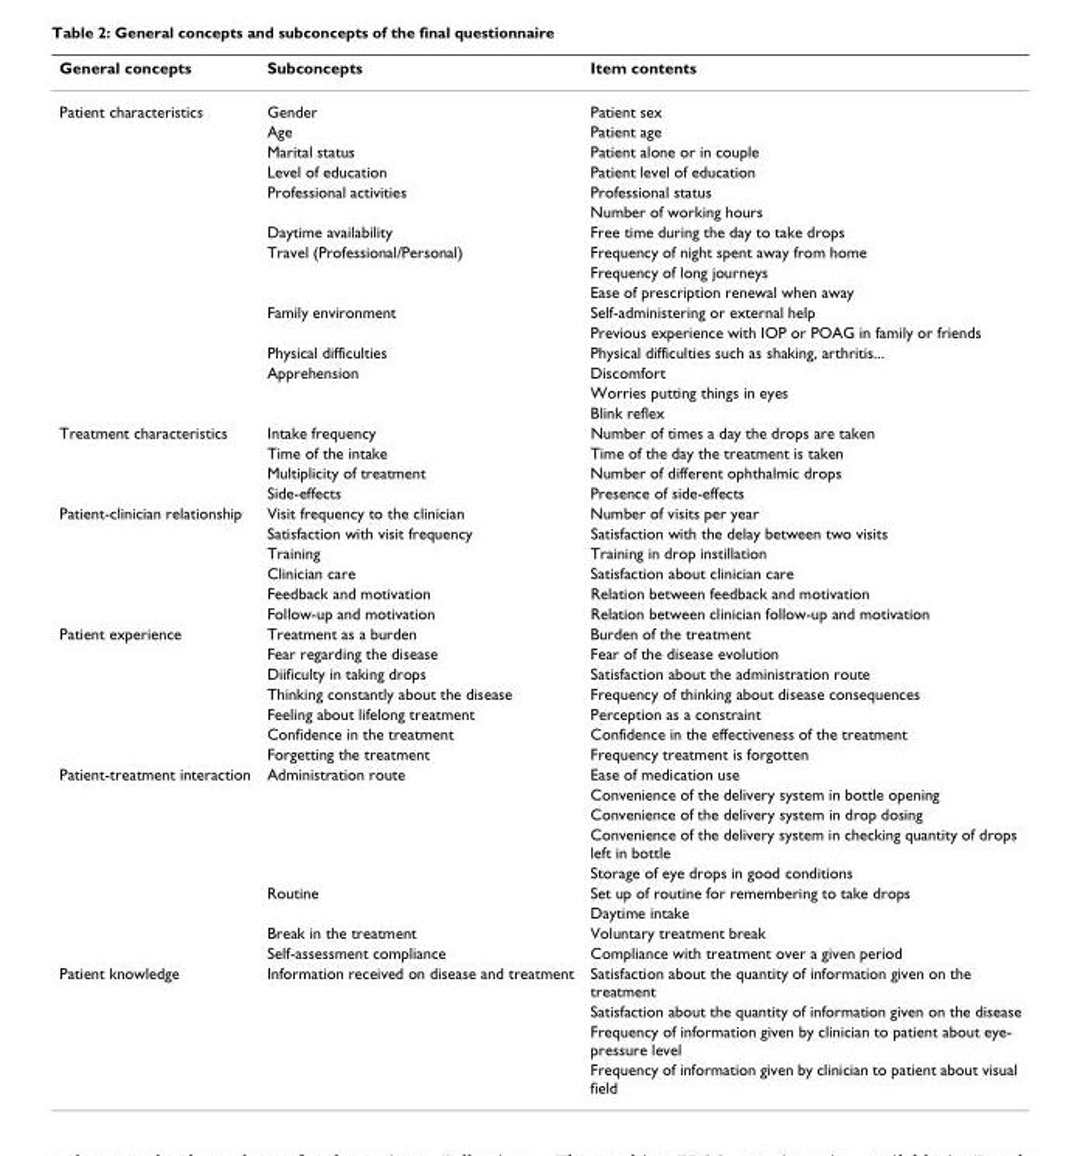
<table><thead><tr><td>General concepts</td><td>Subconcepts</td><td>Item contents</td></tr></thead><tbody><tr><td rowspan="16">Patient characteristics</td><td>Gender</td><td>Patient sex</td></tr><tr><td>Age</td><td>Patient age</td></tr><tr><td>Marital status</td><td>Patient alone or in couple</td></tr><tr><td>Level of education</td><td>Patient level of education</td></tr><tr><td>Professional activities</td><td>Professional status</td></tr><tr><td></td><td>Number of working hours</td></tr><tr><td>Daytime availability</td><td>Free time during the day to take drops</td></tr><tr><td>Travel (Professional/Personal)</td><td>Frequency of night spent away from home</td></tr><tr><td></td><td>Frequency of long journeys</td></tr><tr><td></td><td>Ease of prescription renewal when away</td></tr><tr><td>Family environment</td><td>Self-administering or external help</td></tr><tr><td></td><td>Previous experience with IOP or POAG in family or friends</td></tr><tr><td>Physical difficulties</td><td>Physical difficulties such as shaking, arthritis...</td></tr><tr><td>Apprehension</td><td>Discomfort</td></tr><tr><td></td><td>Worries putting things in eyes</td></tr><tr><td></td><td>Blink reflex</td></tr><tr><td rowspan="4">Treatment characteristics</td><td>Intake frequency</td><td>Number of times a day the drops are taken</td></tr><tr><td>Time of the intake</td><td>Time of the day the treatment is taken</td></tr><tr><td>Multiplicity of treatment</td><td>Number of different ophthalmic drops</td></tr><tr><td>Side-effects</td><td>Presence of side-effects</td></tr><tr><td rowspan="6">Patient-clinician relationship</td><td>Visit frequency to the clinician</td><td>Number of visits per year</td></tr><tr><td>Satisfaction with visit frequency</td><td>Satisfaction with the delay between two visits</td></tr><tr><td>Training</td><td>Training in drop instillation</td></tr><tr><td>Clinician care</td><td>Satisfaction about clinician care</td></tr><tr><td>Feedback and motivation</td><td>Relation between feedback and motivation</td></tr><tr><td>Follow-up and motivation</td><td>Relation between clinician follow-up and motivation</td></tr><tr><td rowspan="7">Patient experience</td><td>Treatment as a burden</td><td>Burden of the treatment</td></tr><tr><td>Fear regarding the disease</td><td>Fear of the disease evolution</td></tr><tr><td>Diificulty in taking drops</td><td>Satisfaction about the administration route</td></tr><tr><td>Thinking constantly about the disease</td><td>Frequency of thinking about disease consequences</td></tr><tr><td>Feeling about lifelong treatment</td><td>Perception as a constraint</td></tr><tr><td>Confidence in the treatment</td><td>Confidence in the effectiveness of the treatment</td></tr><tr><td>Forgetting the treatment</td><td>Frequency treatment is forgotten</td></tr><tr><td rowspan="9">Patient-treatment interaction</td><td>Administration route</td><td>Ease of medication use</td></tr><tr><td></td><td>Convenience of the delivery system in bottle opening</td></tr><tr><td></td><td>Convenience of the delivery system in drop dosing</td></tr><tr><td></td><td>Convenience of the delivery system in checking quantity of drops left in bottle</td></tr><tr><td></td><td>Storage of eye drops in good conditions</td></tr><tr><td>Routine</td><td>Set up of routine for remembering to take drops</td></tr><tr><td></td><td>Daytime intake</td></tr><tr><td>Break in the treatment</td><td>Voluntary treatment break</td></tr><tr><td>Self-assessment compliance</td><td>Compliance with treatment over a given period</td></tr><tr><td rowspan="4">Patient knowledge</td><td>Information received on disease and treatment</td><td>Satisfaction about the quantity of information given on the treatment</td></tr><tr><td></td><td>Satisfaction about the quantity of information given on the disease</td></tr><tr><td></td><td>Frequency of information given by clinician to patient about eye- pressure level</td></tr><tr><td></td><td>Frequency of information given by clinician to patient about visual field</td></tr></tbody></table>